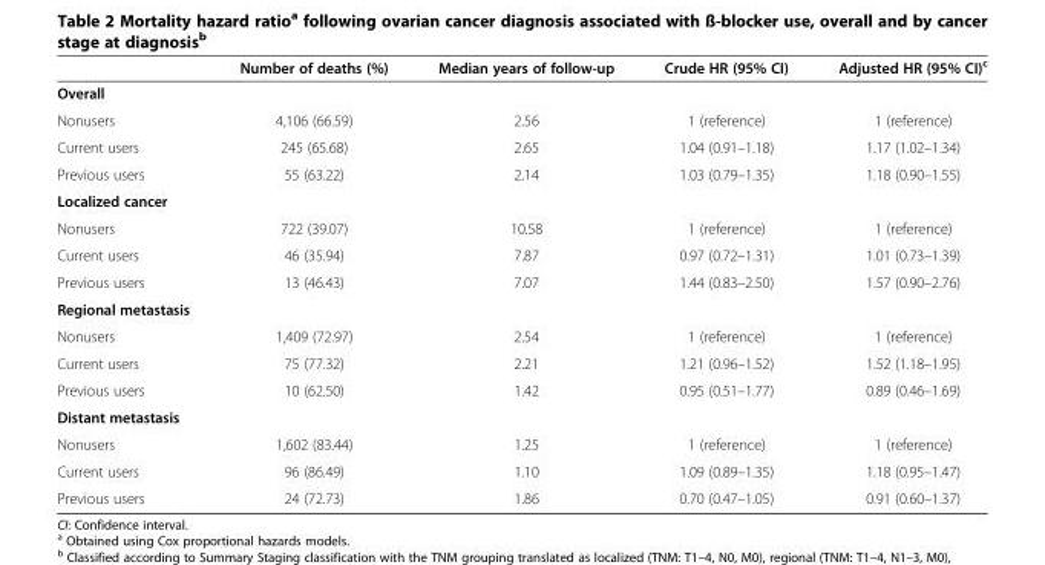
<table><thead><tr><td></td><td>Number of deaths (%)</td><td>Median years of follow-up</td><td>Crude HR (95% CI)</td><td>Adjusted HR (95% CI)<sup>c</sup></td></tr></thead><tbody><tr><td colspan="5">Overall</td></tr><tr><td>Nonusers</td><td>4,106 (66.59)</td><td>2.56</td><td>1 (reference)</td><td>1 (reference)</td></tr><tr><td>Current users</td><td>245 (65.68)</td><td>2.65</td><td>1.04 (0.91–1.18)</td><td>1.17 (1.02–1.34)</td></tr><tr><td>Previous users</td><td>55 (63.22)</td><td>2.14</td><td>1.03 (0.79–1.35)</td><td>1.18 (0.90–1.55)</td></tr><tr><td colspan="5">Localized cancer</td></tr><tr><td>Nonusers</td><td>722 (39.07)</td><td>10.58</td><td>1 (reference)</td><td>1 (reference)</td></tr><tr><td>Current users</td><td>46 (35.94)</td><td>7.87</td><td>0.97 (0.72–1.31)</td><td>1.01 (0.73–1.39)</td></tr><tr><td>Previous users</td><td>13 (46.43)</td><td>7.07</td><td>1.44 (0.83–2.50)</td><td>1.57 (0.90–2.76)</td></tr><tr><td colspan="5">Regional metastasis</td></tr><tr><td>Nonusers</td><td>1,409 (72.97)</td><td>2.54</td><td>1 (reference)</td><td>1 (reference)</td></tr><tr><td>Current users</td><td>75 (77.32)</td><td>2.21</td><td>1.21 (0.96–1.52)</td><td>1.52 (1.18–1.95)</td></tr><tr><td>Previous users</td><td>10 (62.50)</td><td>1.42</td><td>0.95 (0.51–1.77)</td><td>0.89 (0.46–1.69)</td></tr><tr><td colspan="5">Distant metastasis</td></tr><tr><td>Nonusers</td><td>1,602 (83.44)</td><td>1.25</td><td>1 (reference)</td><td>1 (reference)</td></tr><tr><td>Current users</td><td>96 (86.49)</td><td>1.10</td><td>1.09 (0.89–1.35)</td><td>1.18 (0.95–1.47)</td></tr><tr><td>Previous users</td><td>24 (72.73)</td><td>1.86</td><td>0.70 (0.47–1.05)</td><td>0.91 (0.60–1.37)</td></tr></tbody></table>